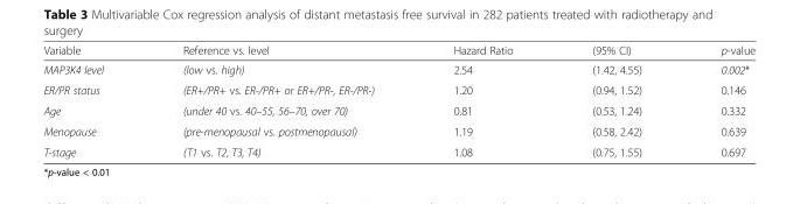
<table><thead><tr><td>Variable</td><td>Reference vs. level</td><td>Hazard Ratio</td><td>(95% CI)</td><td>p-value</td></tr></thead><tbody><tr><td>MAP3K4 level</td><td>(low vs. high)</td><td>2.54</td><td>(1.42, 4.55)</td><td>0.002*</td></tr><tr><td>ER/PR status</td><td>(ER+/PR+ vs. ER-/PR+ or ER+/PR-, ER-/PR-)</td><td>1.20</td><td>(0.94, 1.52)</td><td>0.146</td></tr><tr><td>Age</td><td>(under 40 vs. 40–55, 56–70, over 70)</td><td>0.81</td><td>(0.53, 1.24)</td><td>0.332</td></tr><tr><td>Menopause</td><td>(pre-menopausal vs. postmenopausal)</td><td>1.19</td><td>(0.58, 2.42)</td><td>0.639</td></tr><tr><td>T-stage</td><td>(T1 vs. T2, T3, T4)</td><td>1.08</td><td>(0.75, 1.55)</td><td>0.697</td></tr></tbody></table>